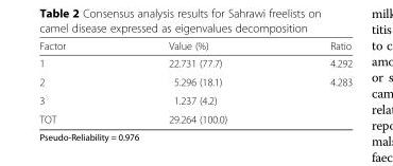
<table><thead><tr><td>Factor</td><td>Value (%)</td><td>Ratio</td></tr></thead><tbody><tr><td>1</td><td>22.731 (77.7)</td><td>4.292</td></tr><tr><td>2</td><td>5.296 (18.1)</td><td>4.283</td></tr><tr><td>3</td><td>1.237 (4.2)</td><td></td></tr><tr><td>TOT</td><td>29.264 (100.0)</td><td></td></tr></tbody></table>